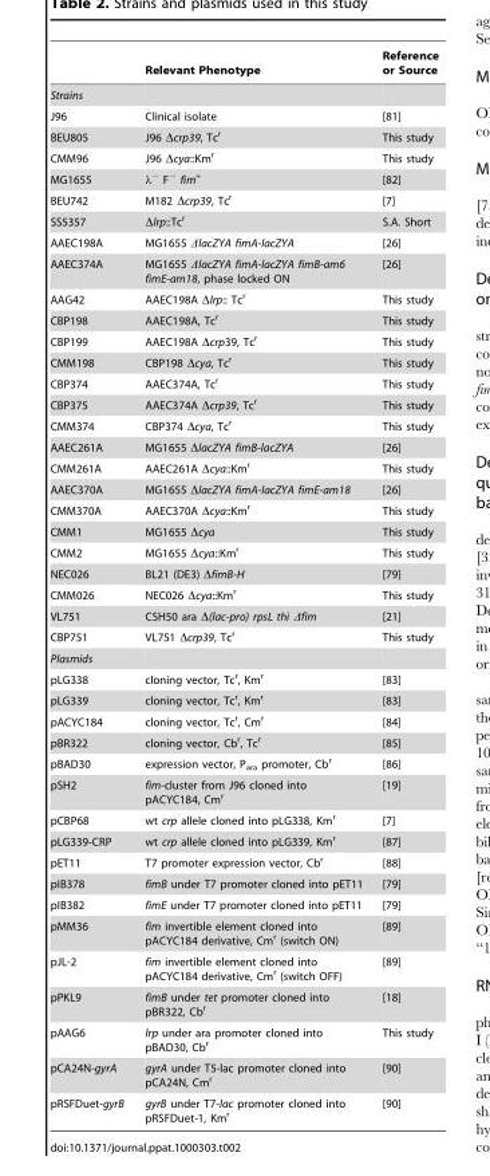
<table><thead><tr><td></td><td>Relevant Phenotype</td><td>Reference or Source</td></tr></thead><tbody><tr><td colspan="3">Strains</td></tr><tr><td>J96</td><td>Clinical isolate</td><td>[81]</td></tr><tr><td>BEU805</td><td>J96 Δcrp39, Tc<sup>r</sup></td><td>This study</td></tr><tr><td>CMM96</td><td>J96 Δcya::Km<sup>r</sup></td><td>This study</td></tr><tr><td>MG1655</td><td>λ<sup>−</sup> F<sup>−</sup> fim<sup>+</sup></td><td>[82]</td></tr><tr><td>BEU742</td><td>M182 Δcrp39, Tc<sup>r</sup></td><td>[7]</td></tr><tr><td>SS5357</td><td>Δlrp::Tc<sup>r</sup></td><td>S.A. Short</td></tr><tr><td>AAEC198A</td><td>MG1655 ΔlacZYA fimA-lacZYA</td><td>[26]</td></tr><tr><td>AAEC374A</td><td>MG1655 ΔlacZYA fimA-lacZYA fimB-am6 fimE-am18, phase locked ON</td><td>[26]</td></tr><tr><td>AAG42</td><td>AAEC198A Δlrp:: Tc<sup>r</sup></td><td>This study</td></tr><tr><td>CBP198</td><td>AAEC198A, Tc<sup>r</sup></td><td>This study</td></tr><tr><td>CBP199</td><td>AAEC198A Δcrp39, Tc<sup>r</sup></td><td>This study</td></tr><tr><td>CMM198</td><td>CBP198 Δcya, Tc<sup>r</sup></td><td>This study</td></tr><tr><td>CBP374</td><td>AAEC374A, Tc<sup>r</sup></td><td>This study</td></tr><tr><td>CBP375</td><td>AAEC374A Δcrp39, Tc<sup>r</sup></td><td>This study</td></tr><tr><td>CMM374</td><td>CBP374 Δcya, Tc<sup>r</sup></td><td>This study</td></tr><tr><td>AAEC261A</td><td>MG1655 ΔlacZYA fimB-lacZYA</td><td>[26]</td></tr><tr><td>CMM261A</td><td>AAEC261A Δcya::Km<sup>r</sup></td><td>This study</td></tr><tr><td>AAEC370A</td><td>MG1655 ΔlacZYA fimA-lacZYA fimE-am18</td><td>[26]</td></tr><tr><td>CMM370A</td><td>AAEC370A Δcya::Km<sup>r</sup></td><td>This study</td></tr><tr><td>CMM1</td><td>MG1655 Δcya</td><td>This study</td></tr><tr><td>CMM2</td><td>MG1655 Δcya::Km<sup>r</sup></td><td>This study</td></tr><tr><td>NEC026</td><td>BL21 (DE3) ΔfimB-H</td><td>[79]</td></tr><tr><td>CMM026</td><td>NEC026 Δcya::Km<sup>r</sup></td><td>This study</td></tr><tr><td>VL751</td><td>CSH50 ara Δ(lac-pro) rpsL thi Δfim</td><td>[21]</td></tr><tr><td>CBP751</td><td>VL751 Δcrp39, Tc<sup>r</sup></td><td>This study</td></tr><tr><td colspan="3">Plasmids</td></tr><tr><td>pLG338</td><td>cloning vector, Tc<sup>r</sup>, Km<sup>r</sup></td><td>[83]</td></tr><tr><td>pLG339</td><td>cloning vector, Tc<sup>r</sup>, Km<sup>r</sup></td><td>[83]</td></tr><tr><td>pACYC184</td><td>cloning vector, Tc<sup>r</sup>, Cm<sup>r</sup></td><td>[84]</td></tr><tr><td>pBR322</td><td>cloning vector, Cb<sup>r</sup>, Tc<sup>r</sup></td><td>[85]</td></tr><tr><td>pBAD30</td><td>expression vector, P<sub>ara</sub> promoter, Cb<sup>r</sup></td><td>[86]</td></tr><tr><td>pSH2</td><td>fim-cluster from J96 cloned into pACYC184, Cm<sup>r</sup></td><td>[19]</td></tr><tr><td>pCBP68</td><td>wt crp allele cloned into pLG338, Km<sup>r</sup></td><td>[7]</td></tr><tr><td>pLG339-CRP</td><td>wt crp allele cloned into pLG339, Km<sup>r</sup></td><td>[87]</td></tr><tr><td>pET11</td><td>T7 promoter expression vector, Cb<sup>r</sup></td><td>[88]</td></tr><tr><td>pIB378</td><td>fimB under T7 promoter cloned into pET11</td><td>[79]</td></tr><tr><td>pIB382</td><td>fimE under T7 promoter cloned into pET11</td><td>[79]</td></tr><tr><td>pMM36</td><td>fim invertible element cloned into pACYC184 derivative, Cm<sup>r</sup> (switch ON)</td><td>[89]</td></tr><tr><td>pJL-2</td><td>fim invertible element cloned into pACYC184 derivative, Cm<sup>r</sup> (switch OFF)</td><td>[89]</td></tr><tr><td>pPKL9</td><td>fimB under tet promoter cloned into pBR322, Cb<sup>r</sup></td><td>[18]</td></tr><tr><td>pAAG6</td><td>lrp under ara promoter cloned into pBAD30, Cb<sup>r</sup></td><td>This study</td></tr><tr><td>pCA24N-gyrA</td><td>gyrA under T5-lac promoter cloned into pCA24N, Cm<sup>r</sup></td><td>[90]</td></tr><tr><td>pRSFDuet-gyrB</td><td>gyrB under T7-lac promoter cloned into pRSFDuet-1, Km<sup>r</sup></td><td>[90]</td></tr></tbody></table>